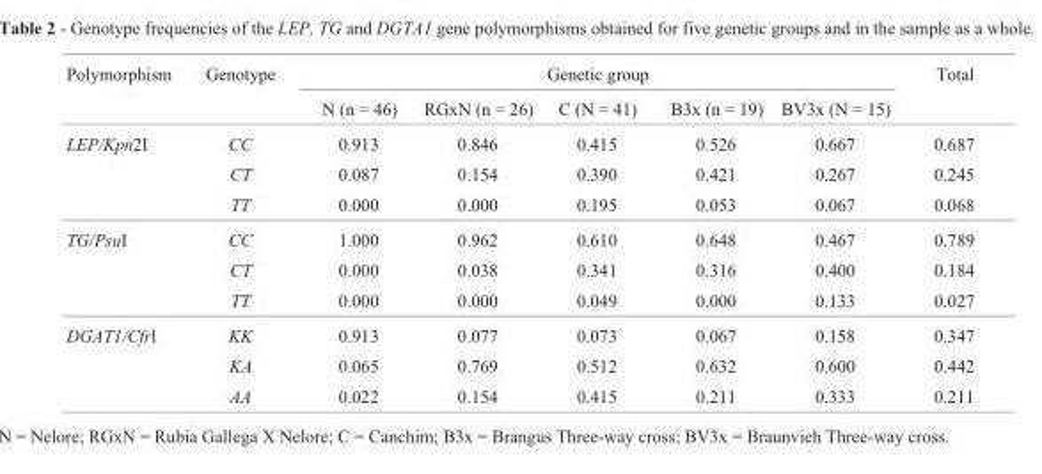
<table><thead><tr><td rowspan="2">Polymorphism</td><td rowspan="2">Genotype</td><td colspan="5">Genetic group</td><td rowspan="2">Total</td></tr><tr><td>N (n = 46)</td><td>RGxN (n = 26)</td><td>C (N = 41)</td><td>B3x (n = 19)</td><td>BV3x (N = 15)</td></tr></thead><tbody><tr><td rowspan="3">LEP/Kpn2I</td><td>CC</td><td>0.913</td><td>0.846</td><td>0.415</td><td>0.526</td><td>0.667</td><td>0.687</td></tr><tr><td>CT</td><td>0.087</td><td>0.154</td><td>0.390</td><td>0.421</td><td>0.267</td><td>0.245</td></tr><tr><td>TT</td><td>0.000</td><td>0.000</td><td>0.195</td><td>0.053</td><td>0.067</td><td>0.068</td></tr><tr><td rowspan="3">TG/PsuI</td><td>CC</td><td>1.000</td><td>0.962</td><td>0.610</td><td>0.648</td><td>0.467</td><td>0.789</td></tr><tr><td>CT</td><td>0.000</td><td>0.038</td><td>0.341</td><td>0.316</td><td>0.400</td><td>0.184</td></tr><tr><td>TT</td><td>0.000</td><td>0.000</td><td>0.049</td><td>0.000</td><td>0.133</td><td>0.027</td></tr><tr><td rowspan="3">DGAT1/Cfrl</td><td>KK</td><td>0.913</td><td>0.077</td><td>0.073</td><td>0.067</td><td>0.158</td><td>0.347</td></tr><tr><td>KA</td><td>0.065</td><td>0.769</td><td>0.512</td><td>0.632</td><td>0.600</td><td>0.442</td></tr><tr><td>AA</td><td>0.022</td><td>0.154</td><td>0.415</td><td>0.211</td><td>0.333</td><td>0.211</td></tr></tbody></table>